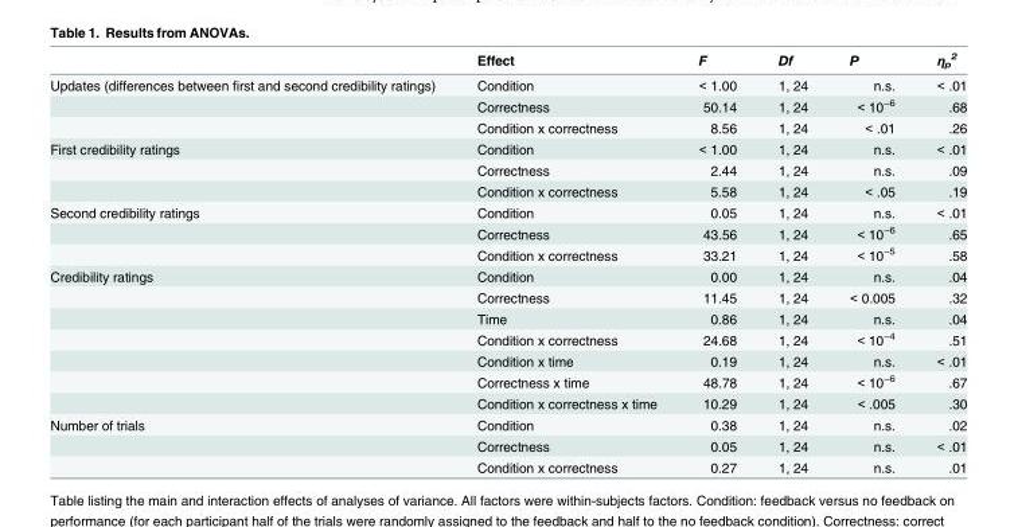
<table><thead><tr><td></td><td>Effect</td><td>F</td><td>Df</td><td>P</td><td>η<sub>p</sub> <sup>2</sup></td></tr></thead><tbody><tr><td rowspan="3">Updates (differences between first and second credibility ratings)</td><td>Condition</td><td>&lt; 1.00</td><td>1, 24</td><td>n.s.</td><td>&lt; .01</td></tr><tr><td>Correctness</td><td>50.14</td><td>1, 24</td><td>&lt; 10<sup>−6</sup></td><td>.68</td></tr><tr><td>Condition x correctness</td><td>8.56</td><td>1, 24</td><td>&lt; .01</td><td>.26</td></tr><tr><td rowspan="3">First credibility ratings</td><td>Condition</td><td>&lt; 1.00</td><td>1, 24</td><td>n.s.</td><td>&lt; .01</td></tr><tr><td>Correctness</td><td>2.44</td><td>1, 24</td><td>n.s.</td><td>.09</td></tr><tr><td>Condition x correctness</td><td>5.58</td><td>1, 24</td><td>&lt; .05</td><td>.19</td></tr><tr><td rowspan="3">Second credibility ratings</td><td>Condition</td><td>0.05</td><td>1, 24</td><td>n.s.</td><td>&lt; .01</td></tr><tr><td>Correctness</td><td>43.56</td><td>1, 24</td><td>&lt; 10<sup>−6</sup></td><td>.65</td></tr><tr><td>Condition x correctness</td><td>33.21</td><td>1, 24</td><td>&lt; 10<sup>−5</sup></td><td>.58</td></tr><tr><td rowspan="7">Credibility ratings</td><td>Condition</td><td>0.00</td><td>1, 24</td><td>n.s.</td><td>.04</td></tr><tr><td>Correctness</td><td>11.45</td><td>1, 24</td><td>&lt; 0.005</td><td>.32</td></tr><tr><td>Time</td><td>0.86</td><td>1, 24</td><td>n.s.</td><td>.04</td></tr><tr><td>Condition x correctness</td><td>24.68</td><td>1, 24</td><td>&lt; 10<sup>−4</sup></td><td>.51</td></tr><tr><td>Condition x time</td><td>0.19</td><td>1, 24</td><td>n.s.</td><td>&lt; .01</td></tr><tr><td>Correctness x time</td><td>48.78</td><td>1, 24</td><td>&lt; 10<sup>−6</sup></td><td>.67</td></tr><tr><td>Condition x correctness x time</td><td>10.29</td><td>1, 24</td><td>&lt; .005</td><td>.30</td></tr><tr><td rowspan="3">Number of trials</td><td>Condition</td><td>0.38</td><td>1, 24</td><td>n.s.</td><td>.02</td></tr><tr><td>Correctness</td><td>0.05</td><td>1, 24</td><td>n.s.</td><td>&lt; .01</td></tr><tr><td>Condition x correctness</td><td>0.27</td><td>1, 24</td><td>n.s.</td><td>.01</td></tr></tbody></table>